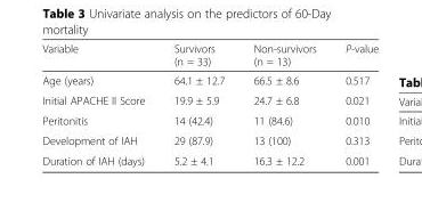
<table><thead><tr><td>Variable</td><td>Survivors (n = 33)</td><td>Non-survivors (n = 13)</td><td>P-value</td></tr></thead><tbody><tr><td>Age (years)</td><td>64.1 ± 12.7</td><td>66.5 ± 8.6</td><td>0.517</td></tr><tr><td>Initial APACHE II Score</td><td>19.9 ± 5.9</td><td>24.7 ± 6.8</td><td>0.021</td></tr><tr><td>Peritonitis</td><td>14 (42.4)</td><td>11 (84.6)</td><td>0.010</td></tr><tr><td>Development of IAH</td><td>29 (87.9)</td><td>13 (100)</td><td>0.313</td></tr><tr><td>Duration of IAH (days)</td><td>5.2 ± 4.1</td><td>16.3 ± 12.2</td><td>0.001</td></tr></tbody></table>